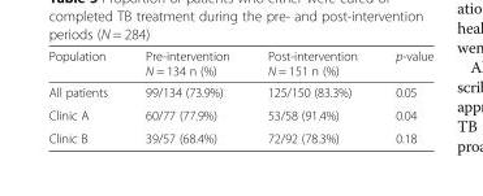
<table><thead><tr><td>Population</td><td>Pre-intervention N = 134 n (%)</td><td>Post-intervention N = 151 n (%)</td><td>p-value</td></tr></thead><tbody><tr><td>All patients</td><td>99/134 (73.9%)</td><td>125/150 (83.3%)</td><td>0.05</td></tr><tr><td>Clinic A</td><td>60/77 (77.9%)</td><td>53/58 (91.4%)</td><td>0.04</td></tr><tr><td>Clinic B</td><td>39/57 (68.4%)</td><td>72/92 (78.3%)</td><td>0.18</td></tr></tbody></table>